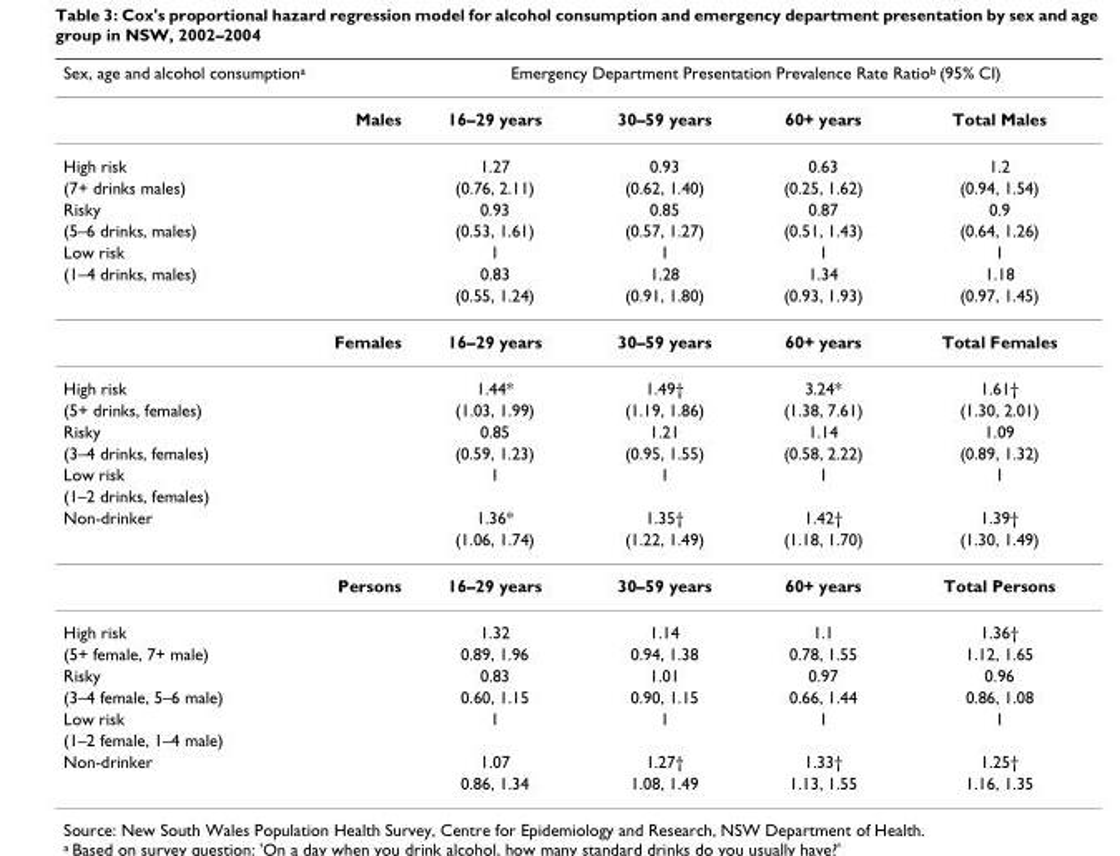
<table><thead><tr><td rowspan="2">Sex, age and alcohol consumptiona Males</td><td colspan="4">Emergency Department Presentation Prevalence Rate Ratiob (95% CI)</td></tr><tr><td>16–29 years</td><td>30–59 years</td><td>60+ years</td><td>Total Males</td></tr></thead><tbody><tr><td>High risk</td><td>1.27</td><td>0.93</td><td>0.63</td><td>1.2</td></tr><tr><td>(7+ drinks males)</td><td>(0.76, 2.11)</td><td>(0.62, 1.40)</td><td>(0.25, 1.62)</td><td>(0.94, 1.54)</td></tr><tr><td>Risky</td><td>0.93</td><td>0.85</td><td>0.87</td><td>0.9</td></tr><tr><td>(5–6 drinks, males)</td><td>(0.53, 1.61)</td><td>(0.57, 1.27)</td><td>(0.51, 1.43)</td><td>(0.64, 1.26)</td></tr><tr><td>Low risk</td><td>1</td><td>1</td><td>1</td><td>1</td></tr><tr><td rowspan="2">(1–4 drinks, males)</td><td>0.83</td><td>1.28</td><td>1.34</td><td>1.18</td></tr><tr><td>(0.55, 1.24)</td><td>(0.91, 1.80)</td><td>(0.93, 1.93)</td><td>(0.97, 1.45)</td></tr><tr><td>Females</td><td>16–29 years</td><td>30–59 years</td><td>60+ years</td><td>Total Females</td></tr><tr><td>High risk</td><td>1.44*</td><td>1.49†</td><td>3.24*</td><td>1.61†</td></tr><tr><td>(5+ drinks, females)</td><td>(1.03, 1.99)</td><td>(1.19, 1.86)</td><td>(1.38, 7.61)</td><td>(1.30, 2.01)</td></tr><tr><td>Risky</td><td>0.85</td><td>1.21</td><td>1.14</td><td>1.09</td></tr><tr><td>(3–4 drinks, females)</td><td>(0.59, 1.23)</td><td>(0.95, 1.55)</td><td>(0.58, 2.22)</td><td>(0.89, 1.32)</td></tr><tr><td>Low risk</td><td>1</td><td>1</td><td>1</td><td>1</td></tr><tr><td colspan="5">(1–2 drinks, females)</td></tr><tr><td rowspan="2">Non-drinker</td><td>1.36*</td><td>1.35†</td><td>1.42†</td><td>1.39†</td></tr><tr><td>(1.06, 1.74)</td><td>(1.22, 1.49)</td><td>(1.18, 1.70)</td><td>(1.30, 1.49)</td></tr><tr><td>Persons</td><td>16–29 years</td><td>30–59 years</td><td>60+ years</td><td>Total Persons</td></tr><tr><td>High risk</td><td>1.32</td><td>1.14</td><td>1.1</td><td>1.36†</td></tr><tr><td>(5+ female, 7+ male)</td><td>0.89, 1.96</td><td>0.94, 1.38</td><td>0.78, 1.55</td><td>1.12, 1.65</td></tr><tr><td>Risky</td><td>0.83</td><td>1.01</td><td>0.97</td><td>0.96</td></tr><tr><td>(3–4 female, 5–6 male)</td><td>0.60, 1.15</td><td>0.90, 1.15</td><td>0.66, 1.44</td><td>0.86, 1.08</td></tr><tr><td>Low risk</td><td>1</td><td>1</td><td>1</td><td>1</td></tr><tr><td colspan="5">(1–2 female, 1–4 male)</td></tr><tr><td rowspan="2">Non-drinker</td><td>1.07</td><td>1.27†</td><td>1.33†</td><td>1.25†</td></tr><tr><td>0.86, 1.34</td><td>1.08, 1.49</td><td>1.13, 1.55</td><td>1.16, 1.35</td></tr></tbody></table>